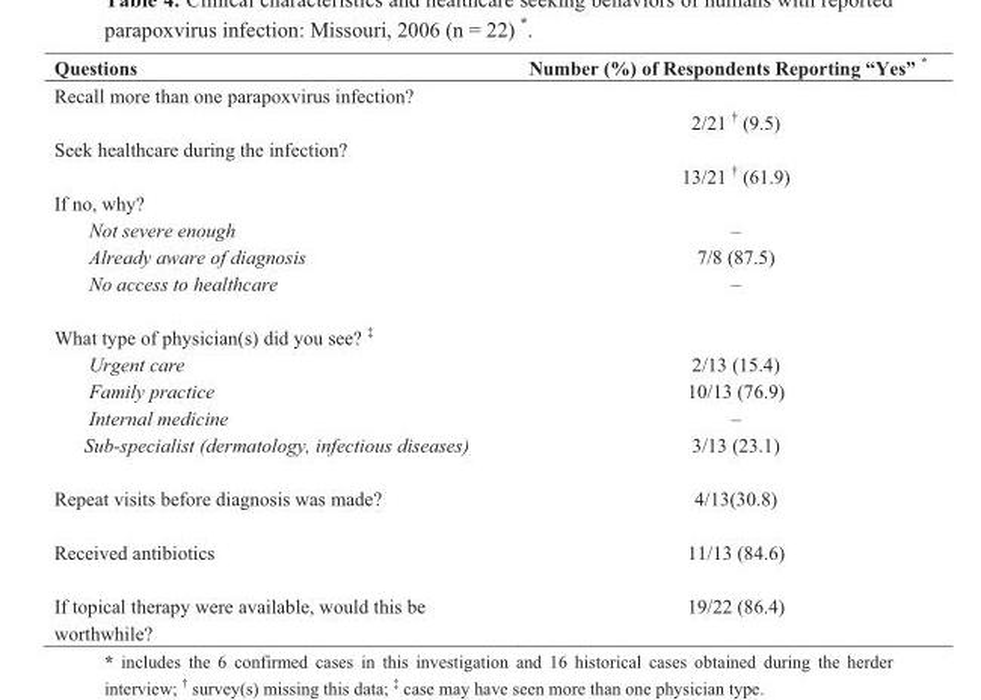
<table><thead><tr><td>Questions</td><td>Number (%) of Respondents Reporting “Yes” *</td></tr></thead><tbody><tr><td>Recall more than one parapoxvirus infection?</td><td>2/21 <sup>†</sup> (9.5)</td></tr><tr><td>Seek healthcare during the infection?</td><td>13/21 <sup>†</sup> (61.9)</td></tr><tr><td colspan="2">If no, why?</td></tr><tr><td>Not severe enough</td><td>–</td></tr><tr><td>Already aware of diagnosis</td><td>7/8 (87.5)</td></tr><tr><td>No access to healthcare</td><td>–</td></tr><tr><td colspan="2">What type of physician(s) did you see? <sup>‡</sup></td></tr><tr><td>Urgent care</td><td>2/13 (15.4)</td></tr><tr><td>Family practice</td><td>10/13 (76.9)</td></tr><tr><td>Internal medicine</td><td>–</td></tr><tr><td>Sub-specialist (dermatology, infectious diseases)</td><td>3/13 (23.1)</td></tr><tr><td>Repeat visits before diagnosis was made?</td><td>4/13(30.8)</td></tr><tr><td>Received antibiotics</td><td>11/13 (84.6)</td></tr><tr><td>If topical therapy were available, would this be worthwhile?</td><td>19/22 (86.4)</td></tr></tbody></table>